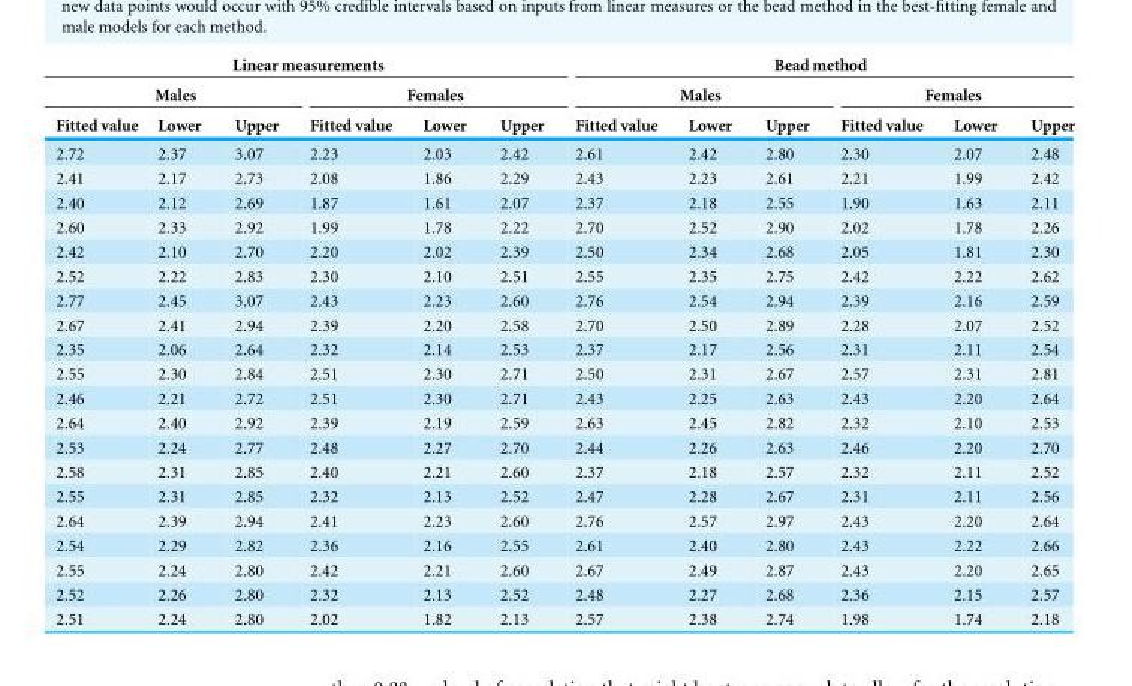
<table><thead><tr><td colspan="6">Linear measurements</td><td colspan="6">Bead method</td></tr><tr><td colspan="3">Males</td><td colspan="3">Females</td><td colspan="3">Males</td><td colspan="3">Females</td></tr><tr><td>Fitted value</td><td>Lower</td><td>Upper</td><td>Fitted value</td><td>Lower</td><td>Upper</td><td>Fitted value</td><td>Lower</td><td>Upper</td><td>Fitted value</td><td>Lower</td><td>Upper</td></tr></thead><tbody><tr><td>2.72</td><td>2.37</td><td>3.07</td><td>2.23</td><td>2.03</td><td>2.42</td><td>2.61</td><td>2.42</td><td>2.80</td><td>2.30</td><td>2.07</td><td>2.48</td></tr><tr><td>2.41</td><td>2.17</td><td>2.73</td><td>2.08</td><td>1.86</td><td>2.29</td><td>2.43</td><td>2.23</td><td>2.61</td><td>2.21</td><td>1.99</td><td>2.42</td></tr><tr><td>2.40</td><td>2.12</td><td>2.69</td><td>1.87</td><td>1.61</td><td>2.07</td><td>2.37</td><td>2.18</td><td>2.55</td><td>1.90</td><td>1.63</td><td>2.11</td></tr><tr><td>2.60</td><td>2.33</td><td>2.92</td><td>1.99</td><td>1.78</td><td>2.22</td><td>2.70</td><td>2.52</td><td>2.90</td><td>2.02</td><td>1.78</td><td>2.26</td></tr><tr><td>2.42</td><td>2.10</td><td>2.70</td><td>2.20</td><td>2.02</td><td>2.39</td><td>2.50</td><td>2.34</td><td>2.68</td><td>2.05</td><td>1.81</td><td>2.30</td></tr><tr><td>2.52</td><td>2.22</td><td>2.83</td><td>2.30</td><td>2.10</td><td>2.51</td><td>2.55</td><td>2.35</td><td>2.75</td><td>2.42</td><td>2.22</td><td>2.62</td></tr><tr><td>2.77</td><td>2.45</td><td>3.07</td><td>2.43</td><td>2.23</td><td>2.60</td><td>2.76</td><td>2.54</td><td>2.94</td><td>2.39</td><td>2.16</td><td>2.59</td></tr><tr><td>2.67</td><td>2.41</td><td>2.94</td><td>2.39</td><td>2.20</td><td>2.58</td><td>2.70</td><td>2.50</td><td>2.89</td><td>2.28</td><td>2.07</td><td>2.52</td></tr><tr><td>2.35</td><td>2.06</td><td>2.64</td><td>2.32</td><td>2.14</td><td>2.53</td><td>2.37</td><td>2.17</td><td>2.56</td><td>2.31</td><td>2.11</td><td>2.54</td></tr><tr><td>2.55</td><td>2.30</td><td>2.84</td><td>2.51</td><td>2.30</td><td>2.71</td><td>2.50</td><td>2.31</td><td>2.67</td><td>2.57</td><td>2.31</td><td>2.81</td></tr><tr><td>2.46</td><td>2.21</td><td>2.72</td><td>2.51</td><td>2.30</td><td>2.71</td><td>2.43</td><td>2.25</td><td>2.63</td><td>2.43</td><td>2.20</td><td>2.64</td></tr><tr><td>2.64</td><td>2.40</td><td>2.92</td><td>2.39</td><td>2.19</td><td>2.59</td><td>2.63</td><td>2.45</td><td>2.82</td><td>2.32</td><td>2.10</td><td>2.53</td></tr><tr><td>2.53</td><td>2.24</td><td>2.77</td><td>2.48</td><td>2.27</td><td>2.70</td><td>2.44</td><td>2.26</td><td>2.63</td><td>2.46</td><td>2.20</td><td>2.70</td></tr><tr><td>2.58</td><td>2.31</td><td>2.85</td><td>2.40</td><td>2.21</td><td>2.60</td><td>2.37</td><td>2.18</td><td>2.57</td><td>2.32</td><td>2.11</td><td>2.52</td></tr><tr><td>2.55</td><td>2.31</td><td>2.85</td><td>2.32</td><td>2.13</td><td>2.52</td><td>2.47</td><td>2.28</td><td>2.67</td><td>2.31</td><td>2.11</td><td>2.56</td></tr><tr><td>2.64</td><td>2.39</td><td>2.94</td><td>2.41</td><td>2.23</td><td>2.60</td><td>2.76</td><td>2.57</td><td>2.97</td><td>2.43</td><td>2.20</td><td>2.64</td></tr><tr><td>2.54</td><td>2.29</td><td>2.82</td><td>2.36</td><td>2.16</td><td>2.55</td><td>2.61</td><td>2.40</td><td>2.80</td><td>2.43</td><td>2.22</td><td>2.66</td></tr><tr><td>2.55</td><td>2.24</td><td>2.80</td><td>2.42</td><td>2.21</td><td>2.60</td><td>2.67</td><td>2.49</td><td>2.87</td><td>2.43</td><td>2.20</td><td>2.65</td></tr><tr><td>2.52</td><td>2.26</td><td>2.80</td><td>2.32</td><td>2.13</td><td>2.52</td><td>2.48</td><td>2.27</td><td>2.68</td><td>2.36</td><td>2.15</td><td>2.57</td></tr><tr><td>2.51</td><td>2.24</td><td>2.80</td><td>2.02</td><td>1.82</td><td>2.13</td><td>2.57</td><td>2.38</td><td>2.74</td><td>1.98</td><td>1.74</td><td>2.18</td></tr></tbody></table>